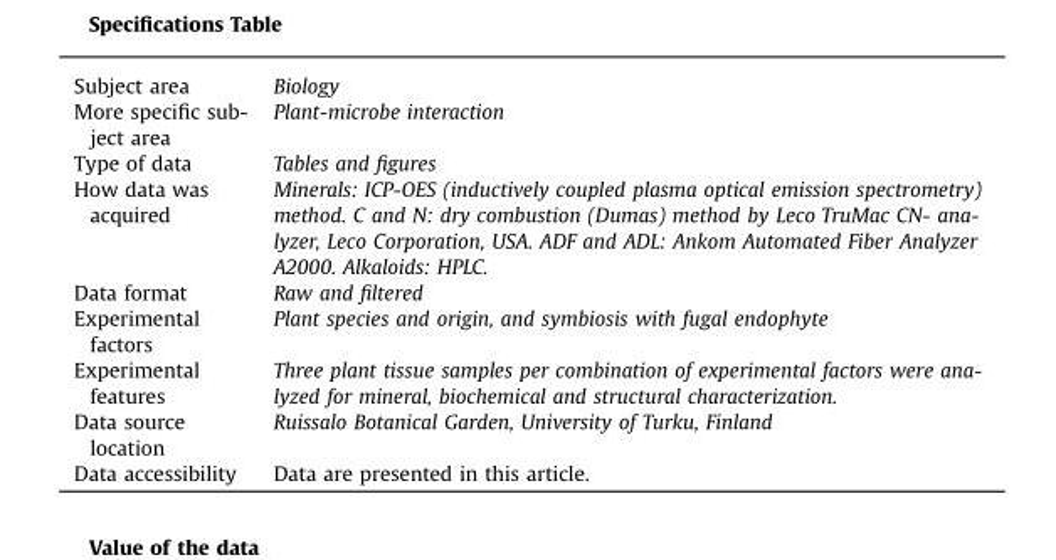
<table><tbody><tr><td>Subject area</td><td>Biology</td></tr><tr><td>More specific sub- ject area</td><td>Plant-microbe interaction</td></tr><tr><td>Type of data</td><td>Tables and figures</td></tr><tr><td>How data was acquired</td><td>Minerals: ICP-OES (inductively coupled plasma optical emission spectrometry) method. C and N: dry combustion (Dumas) method by Leco TruMac CN- ana- lyzer, Leco Corporation, USA. ADF and ADL: Ankom Automated Fiber Analyzer A2000. Alkaloids: HPLC.</td></tr><tr><td>Data format</td><td>Raw and filtered</td></tr><tr><td>Experimental factors</td><td>Plant species and origin, and symbiosis with fugal endophyte</td></tr><tr><td>Experimental features</td><td>Three plant tissue samples per combination of experimental factors were ana- lyzed for mineral, biochemical and structural characterization.</td></tr><tr><td>Data source location</td><td>Ruissalo Botanical Garden, University of Turku, Finland</td></tr><tr><td>Data accessibility</td><td>Data are presented in this article.</td></tr></tbody></table>